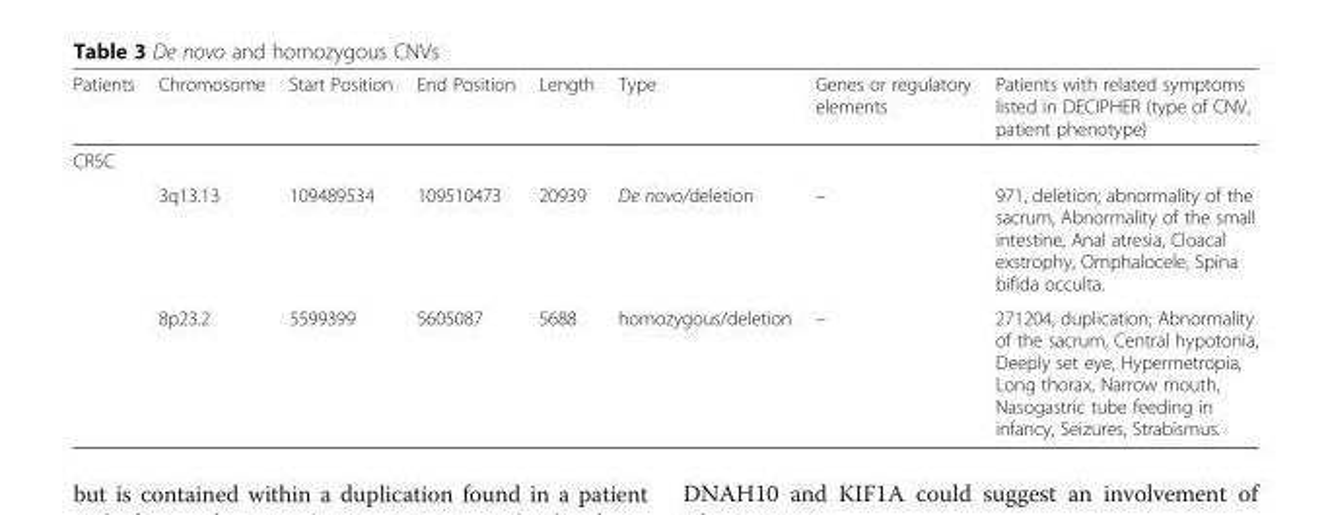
<table><thead><tr><td>Patients</td><td>Chromosome</td><td>Start Position</td><td>End Position</td><td>Length</td><td>Type</td><td>Genes or regulatory elements</td><td>Patients with related symptoms listed in DECIPHER (type of CNV, patient phenotype)</td></tr></thead><tbody><tr><td colspan="8">CR5C</td></tr><tr><td></td><td>3q13.13</td><td>109489534</td><td>109510473</td><td>20939</td><td>De novo/deletion</td><td>–</td><td>971, deletion; abnormality of the sacrum, Abnormality of the small intestine, Anal atresia, Cloacal exstrophy, Omphalocele, Spina bifida occulta.</td></tr><tr><td></td><td>8p23.2</td><td>5599399</td><td>5605087</td><td>5688</td><td>homozygous/deletion</td><td>–</td><td>271204, duplication; Abnormality of the sacrum, Central hypotonia, Deeply set eye, Hypermetropia, Long thorax, Narrow mouth, Nasogastric tube feeding in infancy, Seizures, Strabismus.</td></tr></tbody></table>